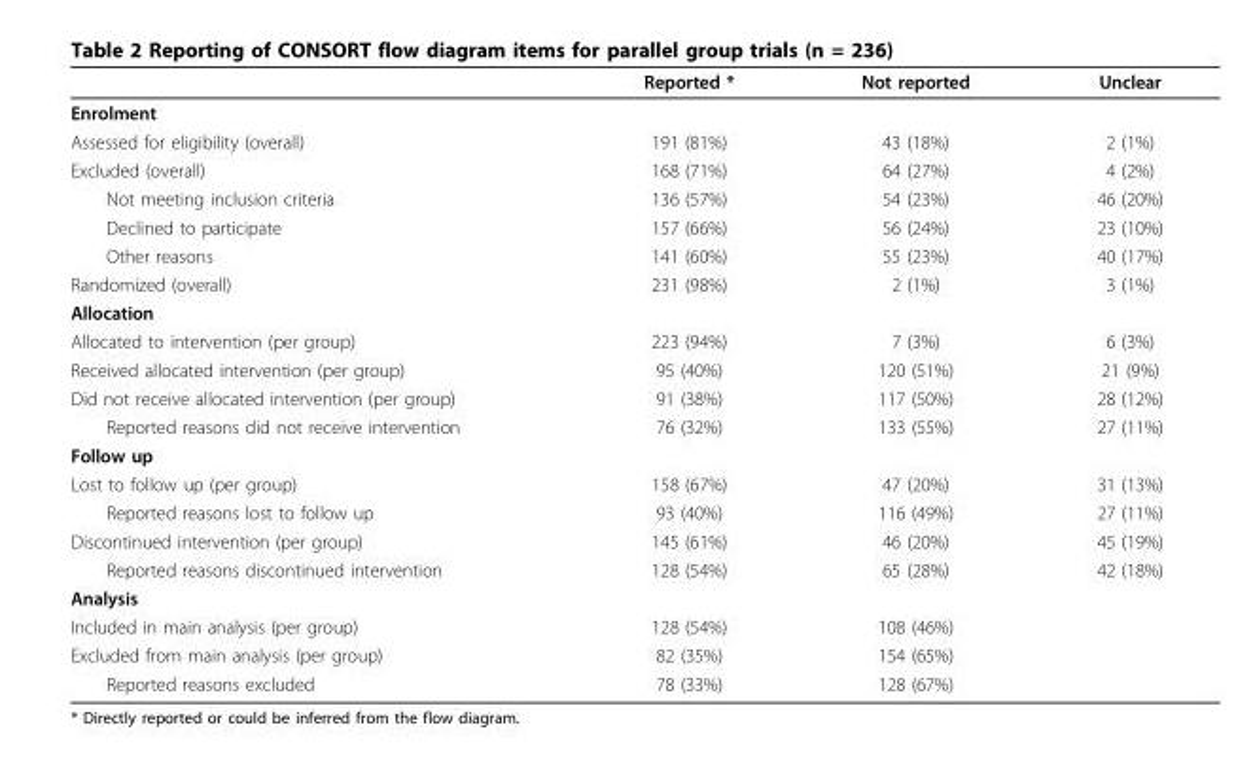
<table><thead><tr><td></td><td>Reported *</td><td>Not reported</td><td>Unclear</td></tr></thead><tbody><tr><td colspan="4">Enrolment</td></tr><tr><td>Assessed for eligibility (overall)</td><td>191 (81%)</td><td>43 (18%)</td><td>2 (1%)</td></tr><tr><td>Excluded (overall)</td><td>168 (71%)</td><td>64 (27%)</td><td>4 (2%)</td></tr><tr><td>Not meeting inclusion criteria</td><td>136 (57%)</td><td>54 (23%)</td><td>46 (20%)</td></tr><tr><td>Declined to participate</td><td>157 (66%)</td><td>56 (24%)</td><td>23 (10%)</td></tr><tr><td>Other reasons</td><td>141 (60%)</td><td>55 (23%)</td><td>40 (17%)</td></tr><tr><td>Randomized (overall)</td><td>231 (98%)</td><td>2 (1%)</td><td>3 (1%)</td></tr><tr><td colspan="4">Allocation</td></tr><tr><td>Allocated to intervention (per group)</td><td>223 (94%)</td><td>7 (3%)</td><td>6 (3%)</td></tr><tr><td>Received allocated intervention (per group)</td><td>95 (40%)</td><td>120 (51%)</td><td>21 (9%)</td></tr><tr><td>Did not receive allocated intervention (per group)</td><td>91 (38%)</td><td>117 (50%)</td><td>28 (12%)</td></tr><tr><td>Reported reasons did not receive intervention</td><td>76 (32%)</td><td>133 (55%)</td><td>27 (11%)</td></tr><tr><td colspan="4">Follow up</td></tr><tr><td>Lost to follow up (per group)</td><td>158 (67%)</td><td>47 (20%)</td><td>31 (13%)</td></tr><tr><td>Reported reasons lost to follow up</td><td>93 (40%)</td><td>116 (49%)</td><td>27 (11%)</td></tr><tr><td>Discontinued intervention (per group)</td><td>145 (61%)</td><td>46 (20%)</td><td>45 (19%)</td></tr><tr><td>Reported reasons discontinued intervention</td><td>128 (54%)</td><td>65 (28%)</td><td>42 (18%)</td></tr><tr><td colspan="4">Analysis</td></tr><tr><td>Included in main analysis (per group)</td><td>128 (54%)</td><td>108 (46%)</td><td></td></tr><tr><td>Excluded from main analysis (per group)</td><td>82 (35%)</td><td>154 (65%)</td><td></td></tr><tr><td>Reported reasons excluded</td><td>78 (33%)</td><td>128 (67%)</td><td></td></tr></tbody></table>